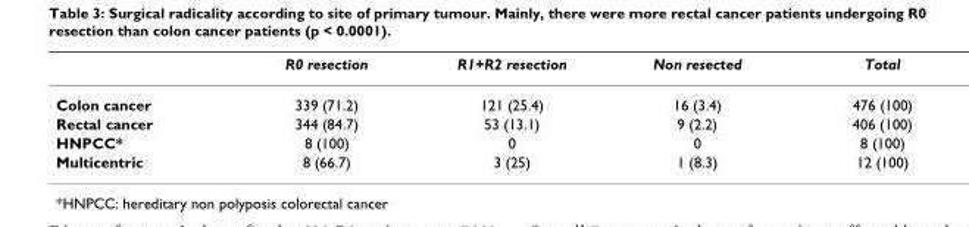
<table><thead><tr><td></td><td>R0 resection</td><td>R1+R2 resection</td><td>Non resected</td><td>Total</td></tr></thead><tbody><tr><td>Colon cancer</td><td>339 (71.2)</td><td>121 (25.4)</td><td>16 (3.4)</td><td>476 (100)</td></tr><tr><td>Rectal cancer</td><td>344 (84.7)</td><td>53 (13.1)</td><td>9 (2.2)</td><td>406 (100)</td></tr><tr><td>HNPCC*</td><td>8 (100)</td><td>0</td><td>0</td><td>8 (100)</td></tr><tr><td>Multicentric</td><td>8 (66.7)</td><td>3 (25)</td><td>1 (8.3)</td><td>12 (100)</td></tr></tbody></table>